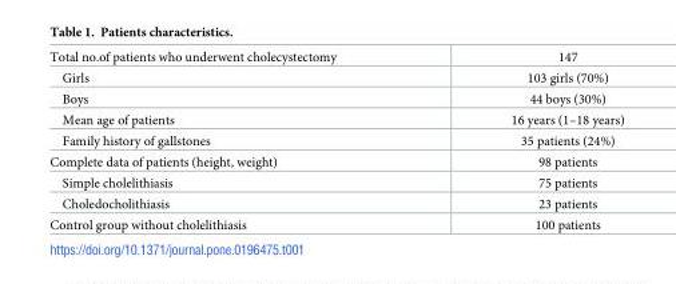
<table><tbody><tr><td>Total no.of patients who underwent cholecystectomy</td><td>147</td></tr><tr><td>Girls</td><td>103 girls (70%)</td></tr><tr><td>Boys</td><td>44 boys (30%)</td></tr><tr><td>Mean age of patients</td><td>16 years (1–18 years)</td></tr><tr><td>Family history of gallstones</td><td>35 patients (24%)</td></tr><tr><td>Complete data of patients (height, weight)</td><td>98 patients</td></tr><tr><td>Simple cholelithiasis</td><td>75 patients</td></tr><tr><td>Choledocholithiasis</td><td>23 patients</td></tr><tr><td>Control group without cholelithiasis</td><td>100 patients</td></tr></tbody></table>